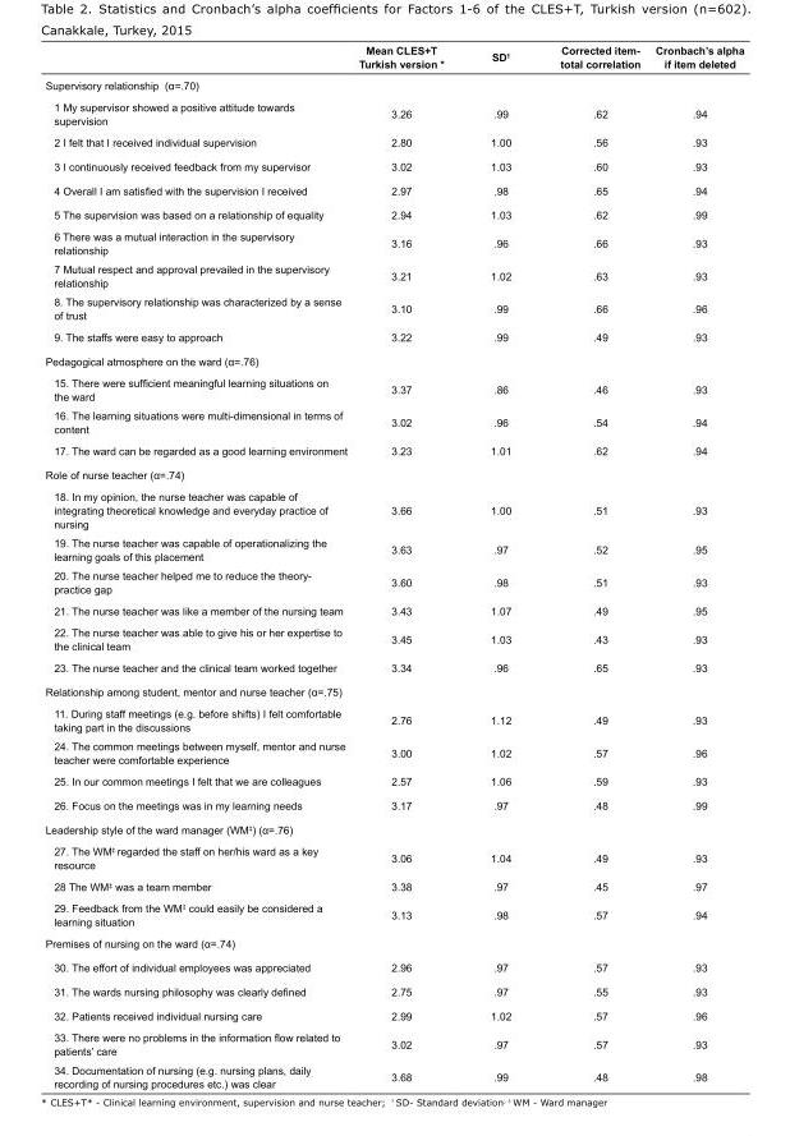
<table><thead><tr><td></td><td>Mean CLES+T Turkish version *</td><td>SD<sup>†</sup></td><td>Corrected item- total correlation</td><td>Cronbach’s alpha if item deleted</td></tr></thead><tbody><tr><td colspan="5">Supervisory relationship (α=.70)</td></tr><tr><td>1 My supervisor showed a positive attitude towards supervision</td><td>3.26</td><td>.99</td><td>.62</td><td>.94</td></tr><tr><td>2 I felt that I received individual supervision</td><td>2.80</td><td>1.00</td><td>.56</td><td>.93</td></tr><tr><td>3 I continuously received feedback from my supervisor</td><td>3.02</td><td>1.03</td><td>.60</td><td>.93</td></tr><tr><td>4 Overall I am satisfied with the supervision I received</td><td>2.97</td><td>.98</td><td>.65</td><td>.94</td></tr><tr><td>5 The supervision was based on a relationship of equality</td><td>2.94</td><td>1.03</td><td>.62</td><td>.99</td></tr><tr><td>6 There was a mutual interaction in the supervisory relationship</td><td>3.16</td><td>.96</td><td>.66</td><td>.93</td></tr><tr><td>7 Mutual respect and approval prevailed in the supervisory relationship</td><td>3.21</td><td>1.02</td><td>.63</td><td>.93</td></tr><tr><td>8. The supervisory relationship was characterized by a sense of trust</td><td>3.10</td><td>.99</td><td>.66</td><td>.96</td></tr><tr><td>9. The staffs were easy to approach</td><td>3.22</td><td>.99</td><td>.49</td><td>.93</td></tr><tr><td colspan="5">Pedagogical atmosphere on the ward (α=.76)</td></tr><tr><td>15. There were sufficient meaningful learning situations on the ward</td><td>3.37</td><td>.86</td><td>.46</td><td>.93</td></tr><tr><td>16. The learning situations were multi-dimensional in terms of content</td><td>3.02</td><td>.96</td><td>.54</td><td>.94</td></tr><tr><td>17. The ward can be regarded as a good learning environment</td><td>3.23</td><td>1.01</td><td>.62</td><td>.94</td></tr><tr><td colspan="5">Role of nurse teacher (α=.74)</td></tr><tr><td>18. In my opinion, the nurse teacher was capable of integrating theoretical knowledge and everyday practice of nursing</td><td>3.66</td><td>1.00</td><td>.51</td><td>.93</td></tr><tr><td>19. The nurse teacher was capable of operationalizing the learning goals of this placement</td><td>3.63</td><td>.97</td><td>.52</td><td>.95</td></tr><tr><td>20. The nurse teacher helped me to reduce the theory- practice gap</td><td>3.60</td><td>.98</td><td>.51</td><td>.93</td></tr><tr><td>21. The nurse teacher was like a member of the nursing team</td><td>3.43</td><td>1.07</td><td>.49</td><td>.95</td></tr><tr><td>22. The nurse teacher was able to give his or her expertise to the clinical team</td><td>3.45</td><td>1.03</td><td>.43</td><td>.93</td></tr><tr><td>23. The nurse teacher and the clinical team worked together</td><td>3.34</td><td>.96</td><td>.65</td><td>.93</td></tr><tr><td colspan="5">Relationship among student, mentor and nurse teacher (α=.75)</td></tr><tr><td>11. During staff meetings (e.g. before shifts) I felt comfortable taking part in the discussions</td><td>2.76</td><td>1.12</td><td>.49</td><td>.93</td></tr><tr><td>24. The common meetings between myself, mentor and nurse teacher were comfortable experience</td><td>3.00</td><td>1.02</td><td>.57</td><td>.96</td></tr><tr><td>25. In our common meetings I felt that we are colleagues</td><td>2.57</td><td>1.06</td><td>.59</td><td>.93</td></tr><tr><td>26. Focus on the meetings was in my learning needs</td><td>3.17</td><td>.97</td><td>.48</td><td>.99</td></tr><tr><td colspan="5">Leadership style of the ward manager (WM<sup>‡</sup>) (α=.76)</td></tr><tr><td>27. The WM<sup>‡</sup> regarded the staff on her/his ward as a key resource</td><td>3.06</td><td>1.04</td><td>.49</td><td>.93</td></tr><tr><td>28 The WM<sup>‡</sup> was a team member</td><td>3.38</td><td>.97</td><td>.45</td><td>.97</td></tr><tr><td>29. Feedback from the WM<sup>‡</sup> could easily be considered a learning situation</td><td>3.13</td><td>.98</td><td>.57</td><td>.94</td></tr><tr><td colspan="5">Premises of nursing on the ward (α=.74)</td></tr><tr><td>30. The effort of individual employees was appreciated</td><td>2.96</td><td>.97</td><td>.57</td><td>.93</td></tr><tr><td>31. The wards nursing philosophy was clearly defined</td><td>2.75</td><td>.97</td><td>.55</td><td>.93</td></tr><tr><td>32. Patients received individual nursing care</td><td>2.99</td><td>1.02</td><td>.57</td><td>.96</td></tr><tr><td>33. There were no problems in the information flow related to patients’ care</td><td>3.02</td><td>.97</td><td>.57</td><td>.93</td></tr><tr><td>34. Documentation of nursing (e.g. nursing plans, daily recording of nursing procedures etc.) was clear</td><td>3.68</td><td>.99</td><td>.48</td><td>.98</td></tr></tbody></table>